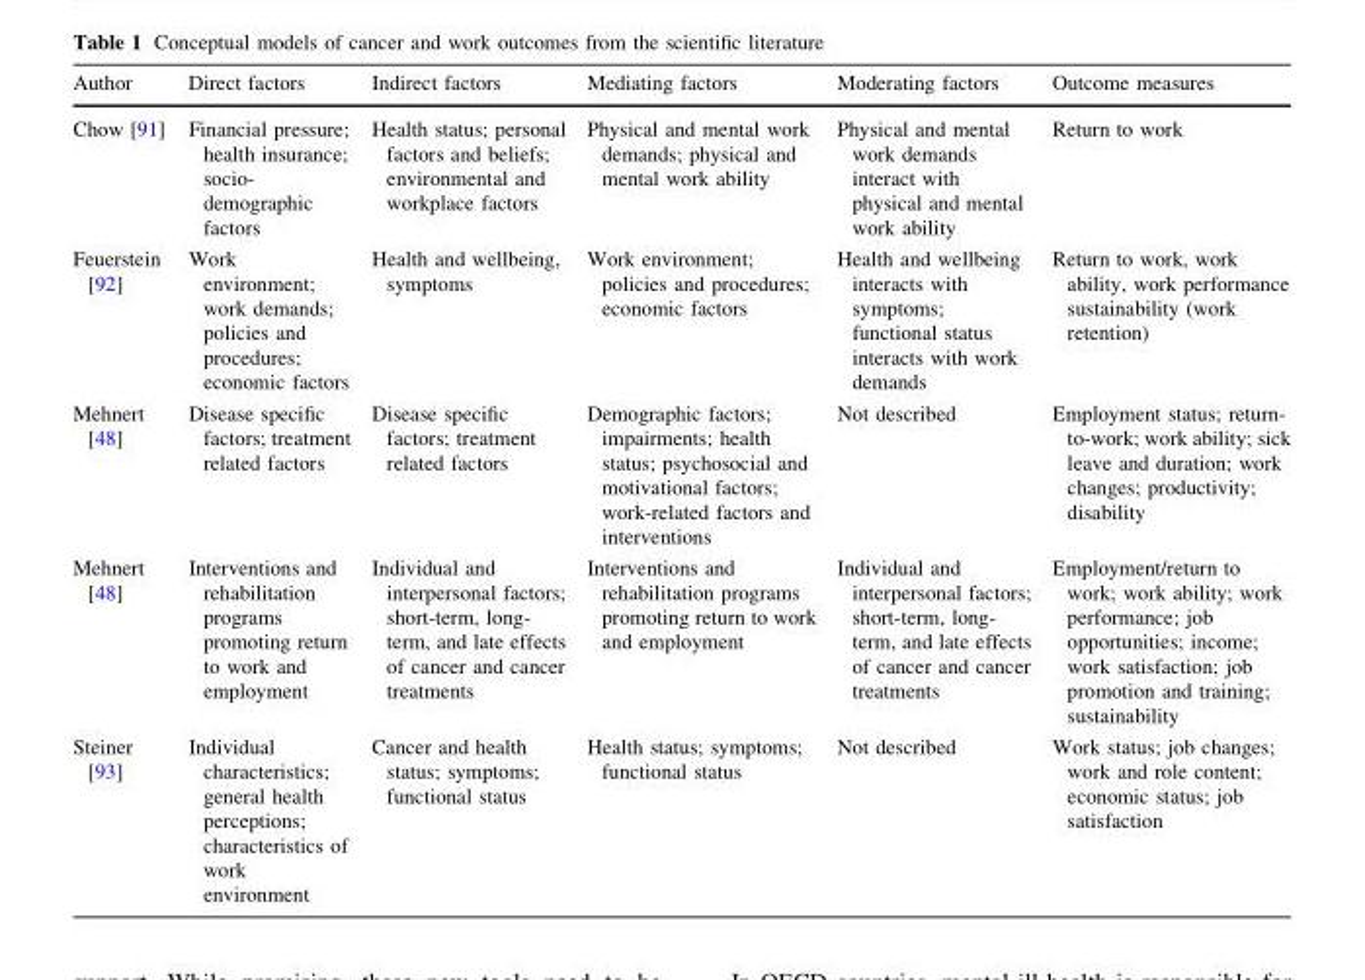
<table><thead><tr><td>Author</td><td>Direct factors</td><td>Indirect factors</td><td>Mediating factors</td><td>Moderating factors</td><td>Outcome measures</td></tr></thead><tbody><tr><td>Chow [91]</td><td>Financial pressure; health insurance; socio- demographic factors</td><td>Health status; personal factors and beliefs; environmental and workplace factors</td><td>Physical and mental work demands; physical and mental work ability</td><td>Physical and mental work demands interact with physical and mental work ability</td><td>Return to work</td></tr><tr><td>Feuerstein [92]</td><td>Work environment; work demands; policies and procedures; economic factors</td><td>Health and wellbeing, symptoms</td><td>Work environment; policies and procedures; economic factors</td><td>Health and wellbeing interacts with symptoms; functional status interacts with work demands</td><td>Return to work, work ability, work performance sustainability (work retention)</td></tr><tr><td>Mehnert [48]</td><td>Disease specific factors; treatment related factors</td><td>Disease specific factors; treatment related factors</td><td>Demographic factors; impairments; health status; psychosocial and motivational factors; work-related factors and interventions</td><td>Not described</td><td>Employment status; return- to-work; work ability; sick leave and duration; work changes; productivity; disability</td></tr><tr><td>Mehnert [48]</td><td>Interventions and rehabilitation programs promoting return to work and employment</td><td>Individual and interpersonal factors; short-term, long- term, and late effects of cancer and cancer treatments</td><td>Interventions and rehabilitation programs promoting return to work and employment</td><td>Individual and interpersonal factors; short-term, long- term, and late effects of cancer and cancer treatments</td><td>Employment/return to work; work ability; work performance; job opportunities; income; work satisfaction; job promotion and training; sustainability</td></tr><tr><td>Steiner [93]</td><td>Individual characteristics; general health perceptions; characteristics of work environment</td><td>Cancer and health status; symptoms; functional status</td><td>Health status; symptoms; functional status</td><td>Not described</td><td>Work status; job changes; work and role content; economic status; job satisfaction</td></tr></tbody></table>